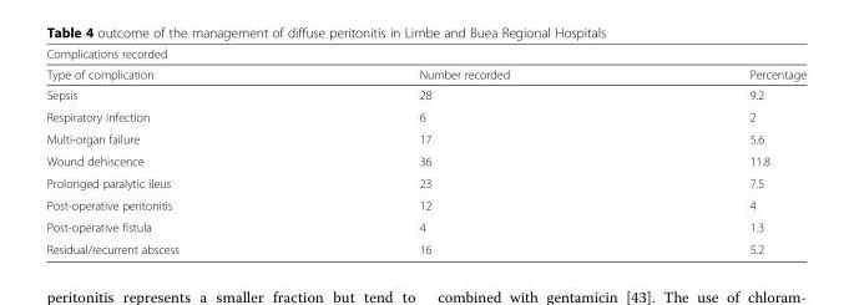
<table><thead><tr><td colspan="3">Complications recorded</td></tr><tr><td>Type of complication</td><td>Number recorded</td><td>Percentage</td></tr></thead><tbody><tr><td>Sepsis</td><td>28</td><td>9.2</td></tr><tr><td>Respiratory infection</td><td>6</td><td>2</td></tr><tr><td>Multi-organ failure</td><td>17</td><td>5.6</td></tr><tr><td>Wound dehiscence</td><td>36</td><td>11.8</td></tr><tr><td>Prolonged paralytic ileus</td><td>23</td><td>7.5</td></tr><tr><td>Post-operative peritonitis</td><td>12</td><td>4</td></tr><tr><td>Post-operative fistula</td><td>4</td><td>1.3</td></tr><tr><td>Residual/recurrent abscess</td><td>16</td><td>5.2</td></tr></tbody></table>